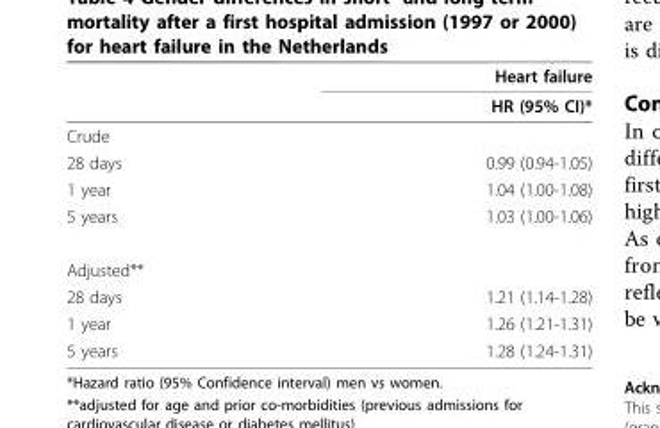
<table><thead><tr><td rowspan="2"></td><td rowspan="2">Heart failure HR (95% CI)*</td></tr><tr></tr></thead><tbody><tr><td colspan="2">Crude</td></tr><tr><td>28 days</td><td>0.99 (0.94-1.05)</td></tr><tr><td>1 year</td><td>1.04 (1.00-1.08)</td></tr><tr><td>5 years</td><td>1.03 (1.00-1.06)</td></tr><tr><td colspan="2">Adjusted**</td></tr><tr><td>28 days</td><td>1.21 (1.14-1.28)</td></tr><tr><td>1 year</td><td>1.26 (1.21-1.31)</td></tr><tr><td>5 years</td><td>1.28 (1.24-1.31)</td></tr></tbody></table>